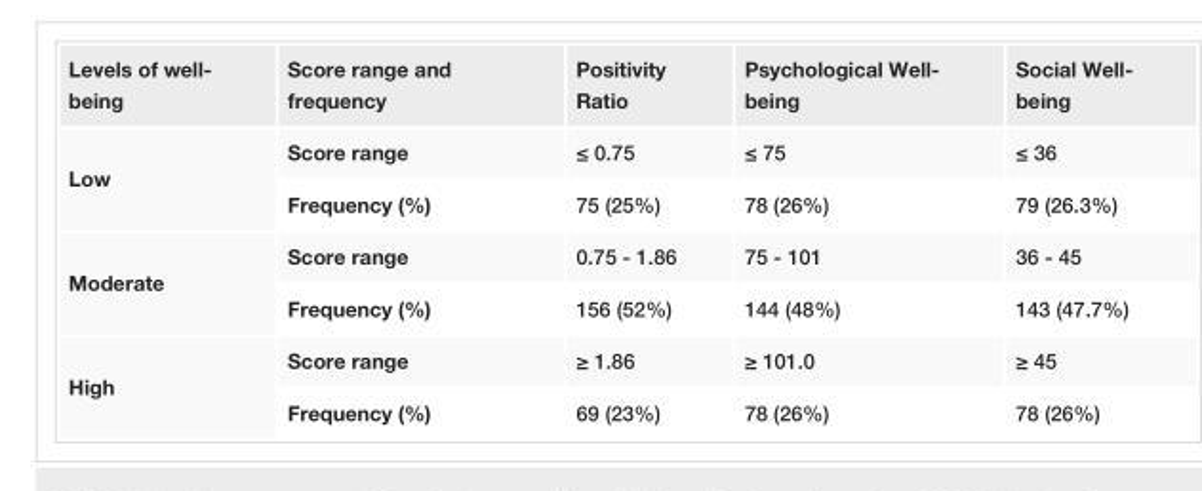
<table><tbody><tr><td>Levels of well- being</td><td>Score range and frequency</td><td>Positivity Ratio</td><td>Psychological Well- being</td><td>Social Well- being</td></tr><tr><td rowspan="2">Low</td><td>Score range</td><td>≤ 0.75</td><td>≤ 75</td><td>≤ 36</td></tr><tr><td>Frequency (%)</td><td>75 (25%)</td><td>78 (26%)</td><td>79 (26.3%)</td></tr><tr><td rowspan="2">Moderate</td><td>Score range</td><td>0.75 - 1.86</td><td>75 - 101</td><td>36 - 45</td></tr><tr><td>Frequency (%)</td><td>156 (52%)</td><td>144 (48%)</td><td>143 (47.7%)</td></tr><tr><td rowspan="2">High</td><td>Score range</td><td>≥ 1.86</td><td>≥ 101.0</td><td>≥ 45</td></tr><tr><td>Frequency (%)</td><td>69 (23%)</td><td>78 (26%)</td><td>78 (26%)</td></tr></tbody></table>